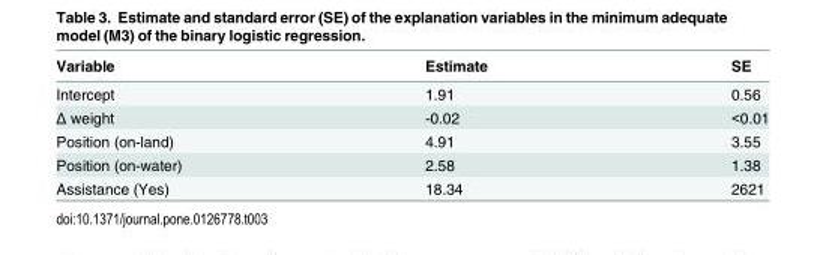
<table><thead><tr><td>Variable</td><td>Estimate</td><td>SE</td></tr></thead><tbody><tr><td>Intercept</td><td>1.91</td><td>0.56</td></tr><tr><td>Δ weight</td><td>-0.02</td><td>&lt;0.01</td></tr><tr><td>Position (on-land)</td><td>4.91</td><td>3.55</td></tr><tr><td>Position (on-water)</td><td>2.58</td><td>1.38</td></tr><tr><td>Assistance (Yes)</td><td>18.34</td><td>2621</td></tr></tbody></table>